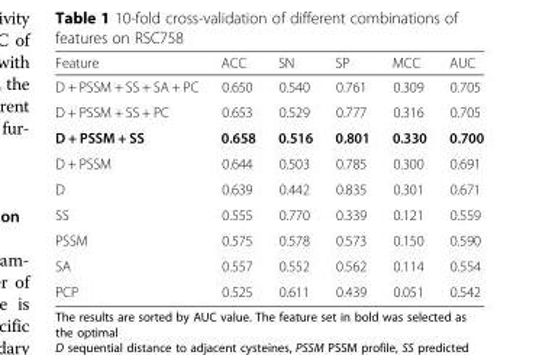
<table><thead><tr><td>Feature</td><td>ACC</td><td>SN</td><td>SP</td><td>MCC</td><td>AUC</td></tr></thead><tbody><tr><td>D + PSSM + SS + SA + PC</td><td>0.650</td><td>0.540</td><td>0.761</td><td>0.309</td><td>0.705</td></tr><tr><td>D + PSSM + SS + PC</td><td>0.653</td><td>0.529</td><td>0.777</td><td>0.316</td><td>0.705</td></tr><tr><td>D + PSSM + SS</td><td>0.658</td><td>0.516</td><td>0.801</td><td>0.330</td><td>0.700</td></tr><tr><td>D + PSSM</td><td>0.644</td><td>0.503</td><td>0.785</td><td>0.300</td><td>0.691</td></tr><tr><td>D</td><td>0.639</td><td>0.442</td><td>0.835</td><td>0.301</td><td>0.671</td></tr><tr><td>SS</td><td>0.555</td><td>0.770</td><td>0.339</td><td>0.121</td><td>0.559</td></tr><tr><td>PSSM</td><td>0.575</td><td>0.578</td><td>0.573</td><td>0.150</td><td>0.590</td></tr><tr><td>SA</td><td>0.557</td><td>0.552</td><td>0.562</td><td>0.114</td><td>0.554</td></tr><tr><td>PCP</td><td>0.525</td><td>0.611</td><td>0.439</td><td>0.051</td><td>0.542</td></tr></tbody></table>